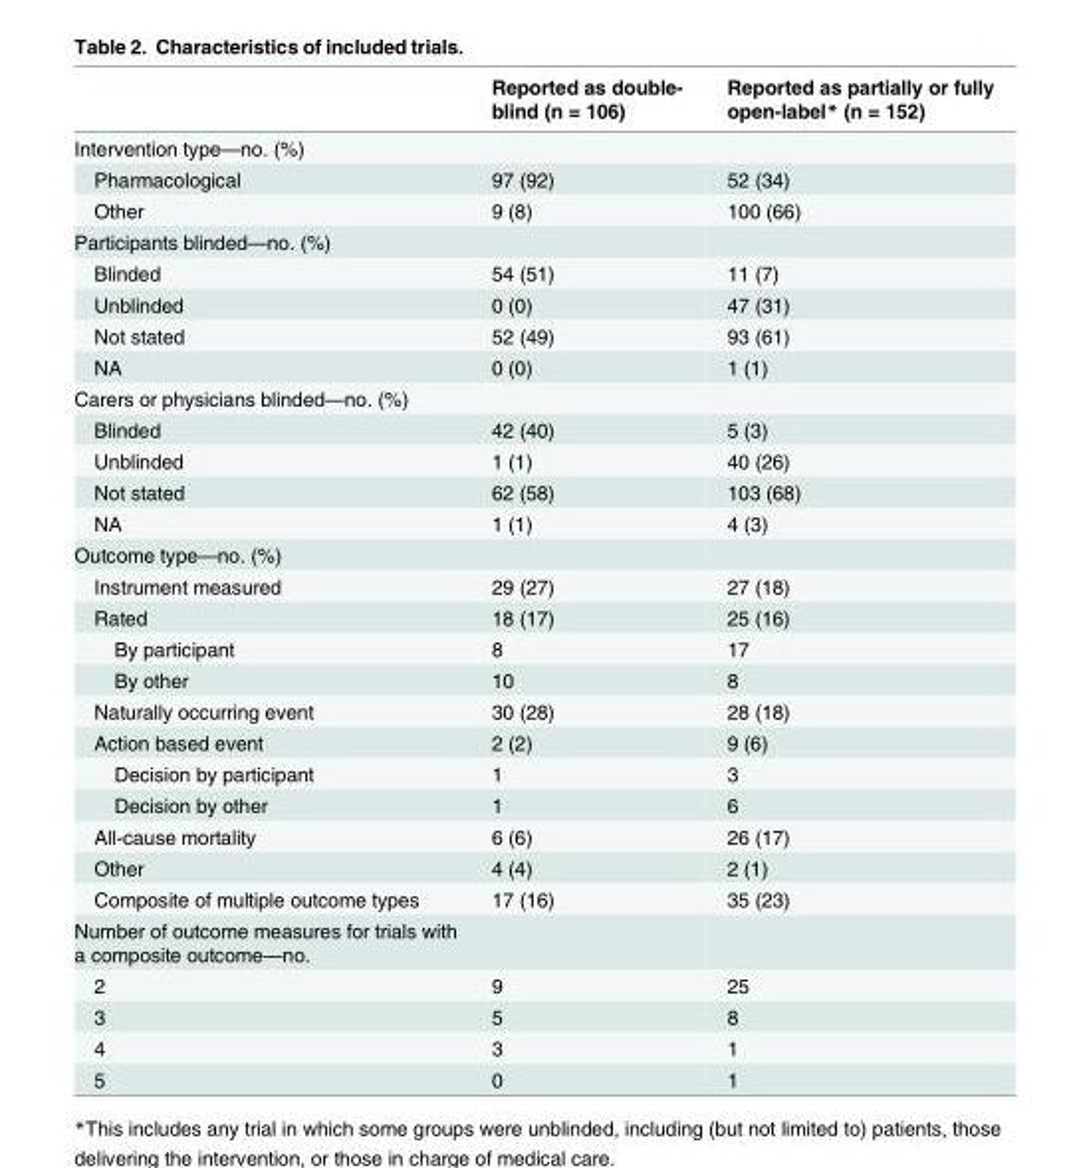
<table><thead><tr><td></td><td>Reported as double- blind (n = 106)</td><td>Reported as partially or fully open-label* (n = 152)</td></tr></thead><tbody><tr><td colspan="3">Intervention type—no. (%)</td></tr><tr><td>Pharmacological</td><td>97 (92)</td><td>52 (34)</td></tr><tr><td>Other</td><td>9 (8)</td><td>100 (66)</td></tr><tr><td colspan="3">Participants blinded—no. (%)</td></tr><tr><td>Blinded</td><td>54 (51)</td><td>11 (7)</td></tr><tr><td>Unblinded</td><td>0 (0)</td><td>47 (31)</td></tr><tr><td>Not stated</td><td>52 (49)</td><td>93 (61)</td></tr><tr><td>NA</td><td>0 (0)</td><td>1 (1)</td></tr><tr><td colspan="3">Carers or physicians blinded—no. (%)</td></tr><tr><td>Blinded</td><td>42 (40)</td><td>5 (3)</td></tr><tr><td>Unblinded</td><td>1 (1)</td><td>40 (26)</td></tr><tr><td>Not stated</td><td>62 (58)</td><td>103 (68)</td></tr><tr><td>NA</td><td>1 (1)</td><td>4 (3)</td></tr><tr><td colspan="3">Outcome type—no. (%)</td></tr><tr><td>Instrument measured</td><td>29 (27)</td><td>27 (18)</td></tr><tr><td>Rated</td><td>18 (17)</td><td>25 (16)</td></tr><tr><td>By participant</td><td>8</td><td>17</td></tr><tr><td>By other</td><td>10</td><td>8</td></tr><tr><td>Naturally occurring event</td><td>30 (28)</td><td>28 (18)</td></tr><tr><td>Action based event</td><td>2 (2)</td><td>9 (6)</td></tr><tr><td>Decision by participant</td><td>1</td><td>3</td></tr><tr><td>Decision by other</td><td>1</td><td>6</td></tr><tr><td>All-cause mortality</td><td>6 (6)</td><td>26 (17)</td></tr><tr><td>Other</td><td>4 (4)</td><td>2 (1)</td></tr><tr><td>Composite of multiple outcome types</td><td>17 (16)</td><td>35 (23)</td></tr><tr><td colspan="3">Number of outcome measures for trials with a composite outcome—no.</td></tr><tr><td>2</td><td>9</td><td>25</td></tr><tr><td>3</td><td>5</td><td>8</td></tr><tr><td>4</td><td>3</td><td>1</td></tr><tr><td>5</td><td>0</td><td>1</td></tr></tbody></table>